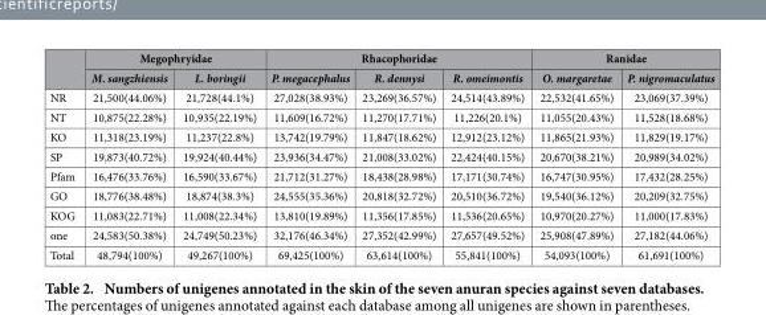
<table><thead><tr><td rowspan="2"></td><td colspan="2">Megophryidae</td><td colspan="3">Rhacophoridae</td><td colspan="2">Ranidae</td></tr><tr><td>M. sangzhiensis</td><td>L. boringii</td><td>P. megacephalus</td><td>R. dennysi</td><td>R. omeimontis</td><td>O. margaretae</td><td>P. nigromaculatus</td></tr></thead><tbody><tr><td>NR</td><td>21,500(44.06%)</td><td>21,728(44.1%)</td><td>27,028(38.93%)</td><td>23,269(36.57%)</td><td>24,514(43.89%)</td><td>22,532(41.65%)</td><td>23,069(37.39%)</td></tr><tr><td>NT</td><td>10,875(22.28%)</td><td>10,935(22.19%)</td><td>11,609(16.72%)</td><td>11,270(17.71%)</td><td>11,226(20.1%)</td><td>11,055(20.43%)</td><td>11,528(18.68%)</td></tr><tr><td>KO</td><td>11,318(23.19%)</td><td>11,237(22.8%)</td><td>13,742(19.79%)</td><td>11,847(18.62%)</td><td>12,912(23.12%)</td><td>11,865(21.93%)</td><td>11,829(19.17%)</td></tr><tr><td>SP</td><td>19,873(40.72%)</td><td>19,924(40.44%)</td><td>23,936(34.47%)</td><td>21,008(33.02%)</td><td>22,424(40.15%)</td><td>20,670(38.21%)</td><td>20,989(34.02%)</td></tr><tr><td>Pfam</td><td>16,476(33.76%)</td><td>16,590(33.67%)</td><td>21,712(31.27%)</td><td>18,438(28.98%)</td><td>17,171(30.74%)</td><td>16,747(30.95%)</td><td>17,432(28.25%)</td></tr><tr><td>GO</td><td>18,776(38.48%)</td><td>18,874(38.3%)</td><td>24,555(35.36%)</td><td>20,818(32.72%)</td><td>20,510(36.72%)</td><td>19,540(36.12%)</td><td>20,209(32.75%)</td></tr><tr><td>KOG</td><td>11,083(22.71%)</td><td>11,008(22.34%)</td><td>13,810(19.89%)</td><td>11,356(17.85%)</td><td>11,536(20.65%)</td><td>10,970(20.27%)</td><td>11,000(17.83%)</td></tr><tr><td>one</td><td>24,583(50.38%)</td><td>24,749(50.23%)</td><td>32,176(46.34%)</td><td>27,352(42.99%)</td><td>27,657(49.52%)</td><td>25,908(47.89%)</td><td>27,182(44.06%)</td></tr><tr><td>Total</td><td>48,794(100%)</td><td>49,267(100%)</td><td>69,425(100%)</td><td>63,614(100%)</td><td>55,841(100%)</td><td>54,093(100%)</td><td>61,691(100%)</td></tr></tbody></table>